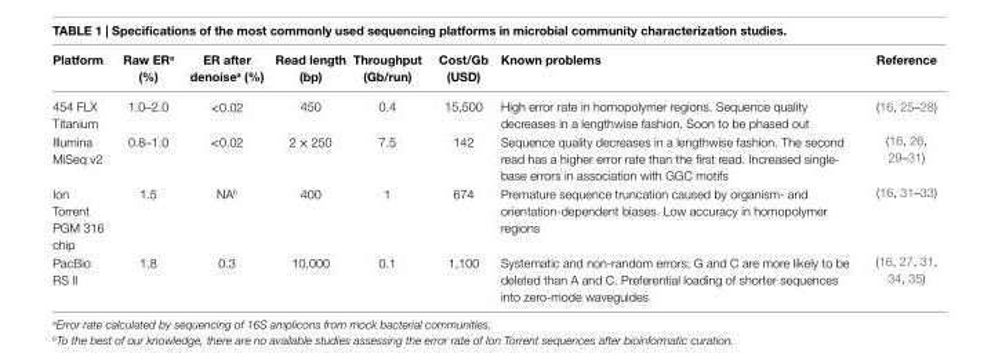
<table><thead><tr><td>Platform</td><td>Raw eR<sup>a</sup> (%)</td><td>eR after denoise<sup>a</sup> (%)</td><td>Read length (bp)</td><td>Throughput (Gb/run)</td><td>Cost/Gb (USD)</td><td>Known problems</td><td>Reference</td></tr></thead><tbody><tr><td>454 FLX Titanium</td><td>1.0–2.0</td><td>&lt;0.02</td><td>450</td><td>0.4</td><td>15,500</td><td>High error rate in homopolymer regions. Sequence quality decreases in a lengthwise fashion. Soon to be phased out</td><td>(16, 25–28)</td></tr><tr><td>Illumina MiSeq v2</td><td>0.8–1.0</td><td>&lt;0.02</td><td>2 × 250</td><td>7.5</td><td>142</td><td>Sequence quality decreases in a lengthwise fashion. The second read has a higher error rate than the first read. Increased single- base errors in association with GGC motifs</td><td>(16, 26, 29–31)</td></tr><tr><td>Ion Torrent PGM 316 chip</td><td>1.5</td><td>NA<sup>b</sup></td><td>400</td><td>1</td><td>674</td><td>Premature sequence truncation caused by organism- and orientation-dependent biases. Low accuracy in homopolymer regions</td><td>(16, 31–33)</td></tr><tr><td>PacBio RS II</td><td>1.8</td><td>0.3</td><td>10,000</td><td>0.1</td><td>1,100</td><td>Systematic and non-random errors; G and C are more likely to be deleted than A and C. Preferential loading of shorter sequences into zero-mode waveguides</td><td>(16, 27, 31, 34, 35)</td></tr></tbody></table>